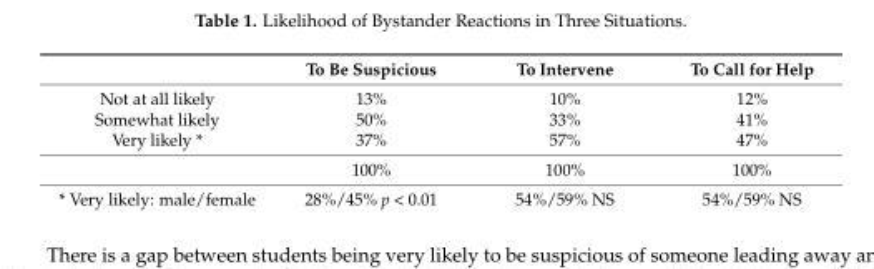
<table><thead><tr><td></td><td>To Be Suspicious</td><td>To Intervene</td><td>To Call for Help</td></tr></thead><tbody><tr><td>Not at all likely</td><td>13%</td><td>10%</td><td>12%</td></tr><tr><td>Somewhat likely</td><td>50%</td><td>33%</td><td>41%</td></tr><tr><td rowspan="2">Very likely *</td><td>37%</td><td>57%</td><td>47%</td></tr><tr><td>100%</td><td>100%</td><td>100%</td></tr><tr><td>* Very likely: male/female</td><td>28%/45% p &lt; 0.01</td><td>54%/59% NS</td><td>54%/59% NS</td></tr></tbody></table>